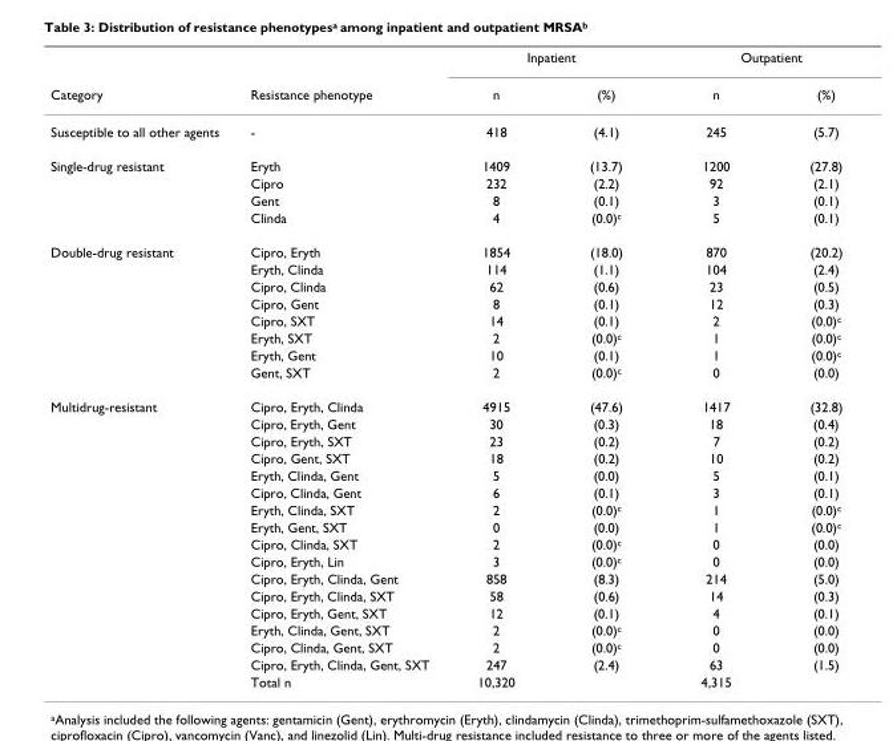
<table><thead><tr><td rowspan="2">Category</td><td rowspan="2">Resistance phenotype</td><td colspan="2">Inpatient</td><td colspan="2">Outpatient</td></tr><tr><td>n</td><td>(%)</td><td>n</td><td>(%)</td></tr></thead><tbody><tr><td>Susceptible to all other agents</td><td>-</td><td>418</td><td>(4.1)</td><td>245</td><td>(5.7)</td></tr><tr><td rowspan="4">Single-drug resistant</td><td>Eryth</td><td>1409</td><td>(13.7)</td><td>1200</td><td>(27.8)</td></tr><tr><td>Cipro</td><td>232</td><td>(2.2)</td><td>92</td><td>(2.1)</td></tr><tr><td>Gent</td><td>8</td><td>(0.1)</td><td>3</td><td>(0.1)</td></tr><tr><td>Clinda</td><td>4</td><td>(0.0)<sup>c</sup></td><td>5</td><td>(0.1)</td></tr><tr><td rowspan="8">Double-drug resistant</td><td>Cipro, Eryth</td><td>1854</td><td>(18.0)</td><td>870</td><td>(20.2)</td></tr><tr><td>Eryth, Clinda</td><td>114</td><td>(1.1)</td><td>104</td><td>(2.4)</td></tr><tr><td>Cipro, Clinda</td><td>62</td><td>(0.6)</td><td>23</td><td>(0.5)</td></tr><tr><td>Cipro, Gent</td><td>8</td><td>(0.1)</td><td>12</td><td>(0.3)</td></tr><tr><td>Cipro, SXT</td><td>14</td><td>(0.1)</td><td>2</td><td>(0.0)<sup>c</sup></td></tr><tr><td>Eryth, SXT</td><td>2</td><td>(0.0)<sup>c</sup></td><td>1</td><td>(0.0)<sup>c</sup></td></tr><tr><td>Eryth, Gent</td><td>10</td><td>(0.1)</td><td>1</td><td>(0.0)<sup>c</sup></td></tr><tr><td>Gent, SXT</td><td>2</td><td>(0.0)<sup>c</sup></td><td>0</td><td>(0.0)</td></tr><tr><td rowspan="17">Multidrug-resistant</td><td>Cipro, Eryth, Clinda</td><td>4915</td><td>(47.6)</td><td>1417</td><td>(32.8)</td></tr><tr><td>Cipro, Eryth, Gent</td><td>30</td><td>(0.3)</td><td>18</td><td>(0.4)</td></tr><tr><td>Cipro, Eryth, SXT</td><td>23</td><td>(0.2)</td><td>7</td><td>(0.2)</td></tr><tr><td>Cipro, Gent, SXT</td><td>18</td><td>(0.2)</td><td>10</td><td>(0.2)</td></tr><tr><td>Eryth, Clinda, Gent</td><td>5</td><td>(0.0)</td><td>5</td><td>(0.1)</td></tr><tr><td>Cipro, Clinda, Gent</td><td>6</td><td>(0.1)</td><td>3</td><td>(0.1)</td></tr><tr><td>Eryth, Clinda, SXT</td><td>2</td><td>(0.0)<sup>c</sup></td><td>1</td><td>(0.0)<sup>c</sup></td></tr><tr><td>Eryth, Gent, SXT</td><td>0</td><td>(0.0)</td><td>1</td><td>(0.0)<sup>c</sup></td></tr><tr><td>Cipro, Clinda, SXT</td><td>2</td><td>(0.0)<sup>c</sup></td><td>0</td><td>(0.0)</td></tr><tr><td>Cipro, Eryth, Lin</td><td>3</td><td>(0.0)<sup>c</sup></td><td>0</td><td>(0.0)</td></tr><tr><td>Cipro, Eryth, Clinda, Gent</td><td>858</td><td>(8.3)</td><td>214</td><td>(5.0)</td></tr><tr><td>Cipro, Eryth, Clinda, SXT</td><td>58</td><td>(0.6)</td><td>14</td><td>(0.3)</td></tr><tr><td>Cipro, Eryth, Gent, SXT</td><td>12</td><td>(0.1)</td><td>4</td><td>(0.1)</td></tr><tr><td>Eryth, Clinda, Gent, SXT</td><td>2</td><td>(0.0)<sup>c</sup></td><td>0</td><td>(0.0)</td></tr><tr><td>Cipro, Clinda, Gent, SXT</td><td>2</td><td>(0.0)<sup>c</sup></td><td>0</td><td>(0.0)</td></tr><tr><td>Cipro, Eryth, Clinda, Gent, SXT</td><td>247</td><td>(2.4)</td><td>63</td><td>(1.5)</td></tr><tr><td>Total n</td><td>10,320</td><td></td><td>4,315</td><td></td></tr></tbody></table>